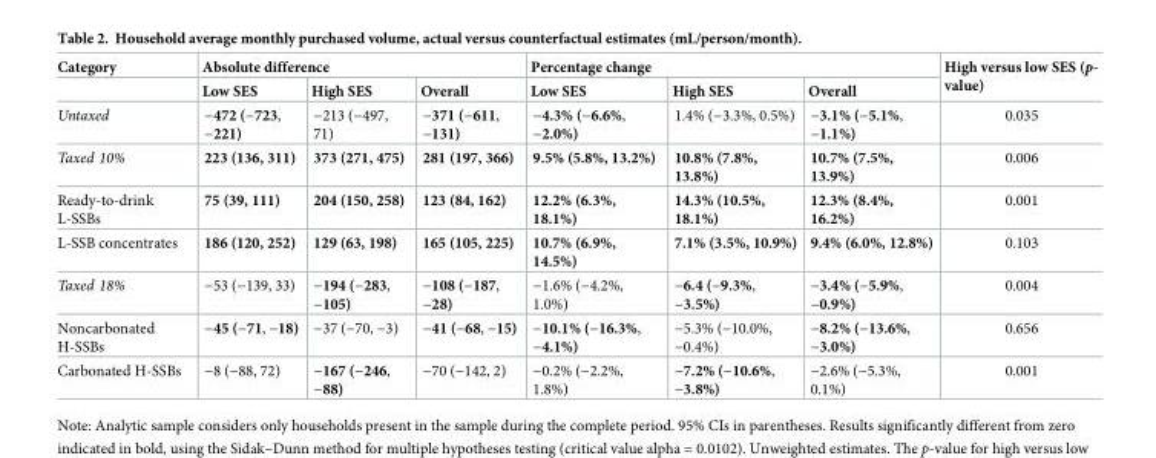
<table><thead><tr><td rowspan="2">Category</td><td colspan="3">Absolute difference</td><td colspan="3">Percentage change</td><td rowspan="2">High versus low SES (p- value)</td></tr><tr><td>Low SES</td><td>High SES</td><td>Overall</td><td>Low SES</td><td>High SES</td><td>Overall</td></tr></thead><tbody><tr><td>Untaxed</td><td>−472 (−723, −221)</td><td>−213 (−497, 71)</td><td>−371 (−611, −131)</td><td>−4.3% (−6.6%, −2.0%)</td><td>1.4% (−3.3%, 0.5%)</td><td>−3.1% (−5.1%, −1.1%)</td><td>0.035</td></tr><tr><td>Taxed 10%</td><td>223 (136, 311)</td><td>373 (271, 475)</td><td>281 (197, 366)</td><td>9.5% (5.8%, 13.2%)</td><td>10.8% (7.8%, 13.8%)</td><td>10.7% (7.5%, 13.9%)</td><td>0.006</td></tr><tr><td>Ready-to-drink L-SSBs</td><td>75 (39, 111)</td><td>204 (150, 258)</td><td>123 (84, 162)</td><td>12.2% (6.3%, 18.1%)</td><td>14.3% (10.5%, 18.1%)</td><td>12.3% (8.4%, 16.2%)</td><td>0.001</td></tr><tr><td>L-SSB concentrates</td><td>186 (120, 252)</td><td>129 (63, 198)</td><td>165 (105, 225)</td><td>10.7% (6.9%, 14.5%)</td><td>7.1% (3.5%, 10.9%)</td><td>9.4% (6.0%, 12.8%)</td><td>0.103</td></tr><tr><td>Taxed 18%</td><td>−53 (−139, 33)</td><td>−194 (−283, −105)</td><td>−108 (−187, −28)</td><td>−1.6% (−4.2%, 1.0%)</td><td>−6.4 (−9.3%, −3.5%)</td><td>−3.4% (−5.9%, −0.9%)</td><td>0.004</td></tr><tr><td>Noncarbonated H-SSBs</td><td>−45 (−71, −18)</td><td>−37 (−70, −3)</td><td>−41 (−68, −15)</td><td>−10.1% (−16.3%, −4.1%)</td><td>−5.3% (−10.0%, −0.4%)</td><td>−8.2% (−13.6%, −3.0%)</td><td>0.656</td></tr><tr><td>Carbonated H-SSBs</td><td>−8 (−88, 72)</td><td>−167 (−246, −88)</td><td>−70 (−142, 2)</td><td>−0.2% (−2.2%, 1.8%)</td><td>−7.2% (−10.6%, −3.8%)</td><td>−2.6% (−5.3%, 0.1%)</td><td>0.001</td></tr></tbody></table>